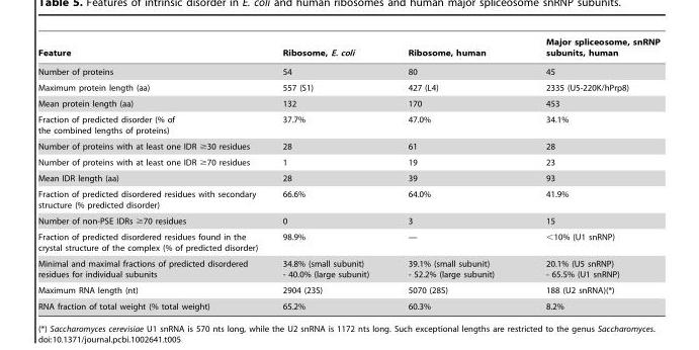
<table><thead><tr><td>Feature</td><td>Ribosome, E. coli</td><td>Ribosome, human</td><td>Major spliceosome, snRNP subunits, human</td></tr></thead><tbody><tr><td>Number of proteins</td><td>54</td><td>80</td><td>45</td></tr><tr><td>Maximum protein length (aa)</td><td>557 (S1)</td><td>427 (L4)</td><td>2335 (U5-220K/hPrp8)</td></tr><tr><td>Mean protein length (aa)</td><td>132</td><td>170</td><td>453</td></tr><tr><td>Fraction of predicted disorder (% of the combined lengths of proteins)</td><td>37.7%</td><td>47.0%</td><td>34.1%</td></tr><tr><td>Number of proteins with at least one IDR ≥30 residues</td><td>28</td><td>61</td><td>28</td></tr><tr><td>Number of proteins with at least one IDR ≥70 residues</td><td>1</td><td>19</td><td>23</td></tr><tr><td>Mean IDR length (aa)</td><td>28</td><td>39</td><td>93</td></tr><tr><td>Fraction of predicted disordered residues with secondary structure (% predicted disorder)</td><td>66.6%</td><td>64.0%</td><td>41.9%</td></tr><tr><td>Number of non-PSE IDRs ≥70 residues</td><td>0</td><td>3</td><td>15</td></tr><tr><td>Fraction of predicted disordered residues found in the crystal structure of the complex (% of predicted disorder)</td><td>98.9%</td><td>—</td><td>&lt;10% (U1 snRNP)</td></tr><tr><td>Minimal and maximal fractions of predicted disordered residues for individual subunits</td><td>34.8% (small subunit) - 40.0% (large subunit)</td><td>39.1% (small subunit) - 52.2% (large subunit)</td><td>20.1% (U5 snRNP) - 65.5% (U1 snRNP)</td></tr><tr><td>Maximum RNA length (nt)</td><td>2904 (23S)</td><td>5070 (28S)</td><td>188 (U2 snRNA)(*)</td></tr><tr><td>RNA fraction of total weight (% total weight)</td><td>65.2%</td><td>60.3%</td><td>8.2%</td></tr></tbody></table>